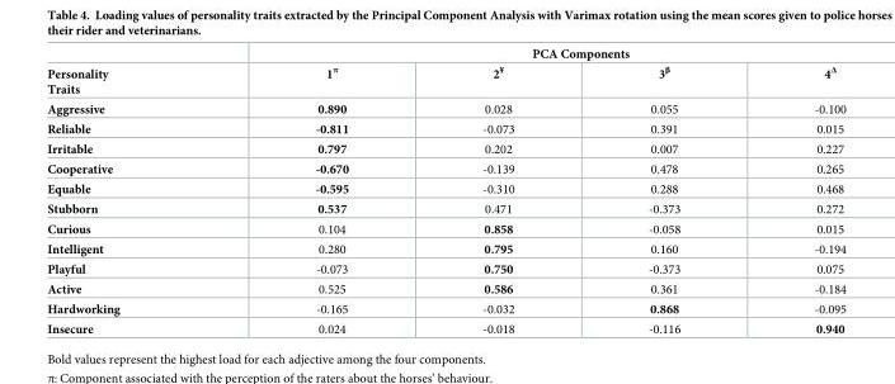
<table><thead><tr><td rowspan="2">Personality Traits</td><td colspan="4">PCA Components</td></tr><tr><td>1<sup>π</sup></td><td>2<sup>¥</sup></td><td>3<sup>β</sup></td><td>4<sup>Δ</sup></td></tr></thead><tbody><tr><td>Aggressive</td><td>0.890</td><td>0.028</td><td>0.055</td><td>-0.100</td></tr><tr><td>Reliable</td><td>-0.811</td><td>-0.073</td><td>0.391</td><td>0.015</td></tr><tr><td>Irritable</td><td>0.797</td><td>0.202</td><td>0.007</td><td>0.227</td></tr><tr><td>Cooperative</td><td>-0.670</td><td>-0.139</td><td>0.478</td><td>0.265</td></tr><tr><td>Equable</td><td>-0.595</td><td>-0.310</td><td>0.288</td><td>0.468</td></tr><tr><td>Stubborn</td><td>0.537</td><td>0.471</td><td>-0.373</td><td>0.272</td></tr><tr><td>Curious</td><td>0.104</td><td>0.858</td><td>-0.058</td><td>0.015</td></tr><tr><td>Intelligent</td><td>0.280</td><td>0.795</td><td>0.160</td><td>-0.194</td></tr><tr><td>Playful</td><td>-0.073</td><td>0.750</td><td>-0.373</td><td>0.075</td></tr><tr><td>Active</td><td>0.525</td><td>0.586</td><td>0.361</td><td>-0.184</td></tr><tr><td>Hardworking</td><td>-0.165</td><td>-0.032</td><td>0.868</td><td>-0.095</td></tr><tr><td>Insecure</td><td>0.024</td><td>-0.018</td><td>-0.116</td><td>0.940</td></tr></tbody></table>